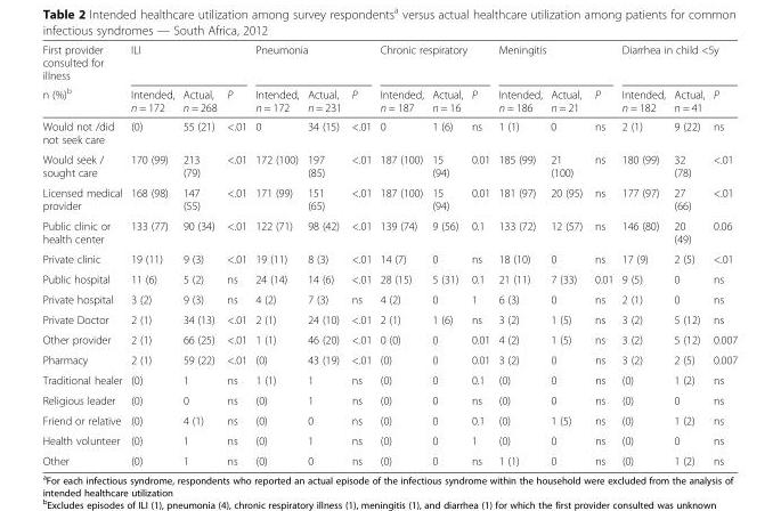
<table><thead><tr><td rowspan="2">First provider consulted for illness n (%)<sup>b</sup></td><td colspan="3">ILI</td><td colspan="3">Pneumonia</td><td colspan="3">Chronic respiratory</td><td colspan="3">Meningitis</td><td colspan="3">Diarrhea in child &lt;5y</td></tr><tr><td>Intended, n = 172</td><td>Actual, n = 268</td><td>P</td><td>Intended, n = 172</td><td>Actual, n = 231</td><td>P</td><td>Intended, n = 187</td><td>Actual, n = 16</td><td>P</td><td>Intended, n = 186</td><td>Actual, n = 21</td><td>P</td><td>Intended, n = 182</td><td>Actual, n = 41</td><td>P</td></tr></thead><tbody><tr><td>Would not /did not seek care</td><td>(0)</td><td>55 (21)</td><td>&lt;.01</td><td>0</td><td>34 (15)</td><td>&lt;.01</td><td>0</td><td>1 (6)</td><td>ns</td><td>1 (1)</td><td>0</td><td>ns</td><td>2 (1)</td><td>9 (22)</td><td>ns</td></tr><tr><td>Would seek / sought care</td><td>170 (99)</td><td>213 (79)</td><td>&lt;.01</td><td>172 (100)</td><td>197 (85)</td><td>&lt;.01</td><td>187 (100)</td><td>15 (94)</td><td>0.01</td><td>185 (99)</td><td>21 (100)</td><td>ns</td><td>180 (99)</td><td>32 (78)</td><td>&lt;.01</td></tr><tr><td>Licensed medical provider</td><td>168 (98)</td><td>147 (55)</td><td>&lt;.01</td><td>171 (99)</td><td>151 (65)</td><td>&lt;.01</td><td>187 (100)</td><td>15 (94)</td><td>0.01</td><td>181 (97)</td><td>20 (95)</td><td>ns</td><td>177 (97)</td><td>27 (66)</td><td>&lt;.01</td></tr><tr><td>Public clinic or health center</td><td>133 (77)</td><td>90 (34)</td><td>&lt;.01</td><td>122 (71)</td><td>98 (42)</td><td>&lt;.01</td><td>139 (74)</td><td>9 (56)</td><td>0.1</td><td>133 (72)</td><td>12 (57)</td><td>ns</td><td>146 (80)</td><td>20 (49)</td><td>0.06</td></tr><tr><td>Private clinic</td><td>19 (11)</td><td>9 (3)</td><td>&lt;.01</td><td>19 (11)</td><td>8 (3)</td><td>&lt;.01</td><td>14 (7)</td><td>0</td><td>ns</td><td>18 (10)</td><td>0</td><td>ns</td><td>17 (9)</td><td>2 (5)</td><td>&lt;.01</td></tr><tr><td>Public hospital</td><td>11 (6)</td><td>5 (2)</td><td>ns</td><td>24 (14)</td><td>14 (6)</td><td>&lt;.01</td><td>28 (15)</td><td>5 (31)</td><td>0.1</td><td>21 (11)</td><td>7 (33)</td><td>0.01</td><td>9 (5)</td><td>0</td><td>ns</td></tr><tr><td>Private hospital</td><td>3 (2)</td><td>9 (3)</td><td>ns</td><td>4 (2)</td><td>7 (3)</td><td>ns</td><td>4 (2)</td><td>0</td><td>1</td><td>6 (3)</td><td>0</td><td>ns</td><td>2 (1)</td><td>0</td><td>ns</td></tr><tr><td>Private Doctor</td><td>2 (1)</td><td>34 (13)</td><td>&lt;.01</td><td>2 (1)</td><td>24 (10)</td><td>&lt;.01</td><td>2 (1)</td><td>1 (6)</td><td>ns</td><td>3 (2)</td><td>1 (5)</td><td>ns</td><td>3 (2)</td><td>5 (12)</td><td>ns</td></tr><tr><td>Other provider</td><td>2 (1)</td><td>66 (25)</td><td>&lt;.01</td><td>1 (1)</td><td>46 (20)</td><td>&lt;.01</td><td>0 (0)</td><td>0</td><td>0.01</td><td>4 (2)</td><td>1 (5)</td><td>ns</td><td>3 (2)</td><td>5 (12)</td><td>0.007</td></tr><tr><td>Pharmacy</td><td>2 (1)</td><td>59 (22)</td><td>&lt;.01</td><td>(0)</td><td>43 (19)</td><td>&lt;.01</td><td>(0)</td><td>0</td><td>0.01</td><td>3 (2)</td><td>0</td><td>ns</td><td>3 (2)</td><td>2 (5)</td><td>0.007</td></tr><tr><td>Traditional healer</td><td>(0)</td><td>1</td><td>ns</td><td>1 (1)</td><td>1</td><td>ns</td><td>(0)</td><td>0</td><td>0.1</td><td>(0)</td><td>0</td><td>ns</td><td>(0)</td><td>1 (2)</td><td>ns</td></tr><tr><td>Religious leader</td><td>(0)</td><td>0</td><td>ns</td><td>(0)</td><td>1</td><td>ns</td><td>(0)</td><td>0</td><td>ns</td><td>(0)</td><td>0</td><td>ns</td><td>(0)</td><td>0</td><td>ns</td></tr><tr><td>Friend or relative</td><td>(0)</td><td>4 (1)</td><td>ns</td><td>(0)</td><td>0</td><td>ns</td><td>(0)</td><td>0</td><td>0.1</td><td>(0)</td><td>1 (5)</td><td>ns</td><td>(0)</td><td>1 (2)</td><td>ns</td></tr><tr><td>Health volunteer</td><td>(0)</td><td>1</td><td>ns</td><td>(0)</td><td>1</td><td>ns</td><td>(0)</td><td>0</td><td>1</td><td>(0)</td><td>0</td><td>ns</td><td>(0)</td><td>0</td><td>ns</td></tr><tr><td>Other</td><td>(0)</td><td>1</td><td>ns</td><td>(0)</td><td>0</td><td>ns</td><td>(0)</td><td>0</td><td>ns</td><td>1 (1)</td><td>0</td><td>ns</td><td>(0)</td><td>1 (2)</td><td>ns</td></tr></tbody></table>